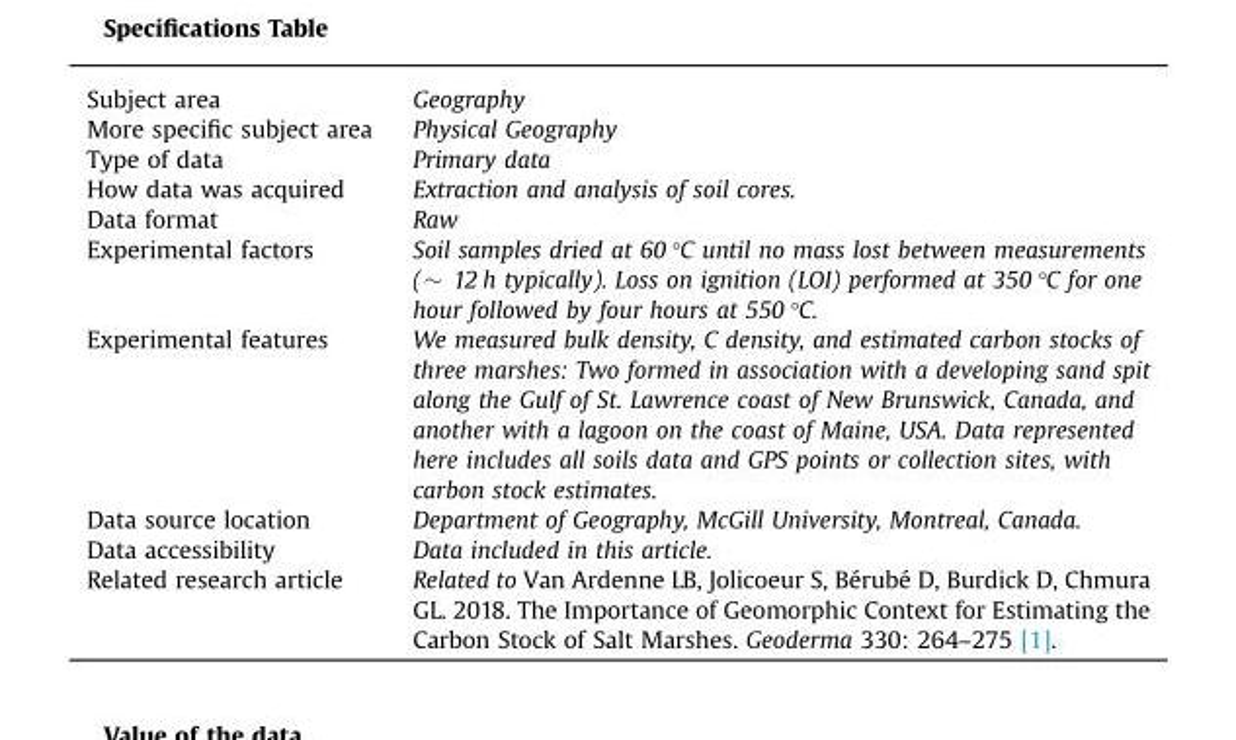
<table><tbody><tr><td>Subject area</td><td>Geography</td></tr><tr><td>More specific subject area</td><td>Physical Geography</td></tr><tr><td>Type of data</td><td>Primary data</td></tr><tr><td>How data was acquired</td><td>Extraction and analysis of soil cores.</td></tr><tr><td>Data format</td><td>Raw</td></tr><tr><td>Experimental factors</td><td>Soil samples dried at 60 °C until no mass lost between measurements (~ 12 h typically). Loss on ignition (LOI) performed at 350 °C for one hour followed by four hours at 550 °C.</td></tr><tr><td>Experimental features</td><td>We measured bulk density, C density, and estimated carbon stocks of three marshes: Two formed in association with a developing sand spit along the Gulf of St. Lawrence coast of New Brunswick, Canada, and another with a lagoon on the coast of Maine, USA. Data represented here includes all soils data and GPS points or collection sites, with carbon stock estimates.</td></tr><tr><td>Data source location</td><td>Department of Geography, McGill University, Montreal, Canada.</td></tr><tr><td>Data accessibility</td><td>Data included in this article.</td></tr><tr><td>Related research article</td><td>Related to Van Ardenne LB, Jolicoeur S, Bérubé D, Burdick D, Chmura GL. 2018. The Importance of Geomorphic Context for Estimating the Carbon Stock of Salt Marshes. Geoderma 330: 264–275 [1].</td></tr></tbody></table>